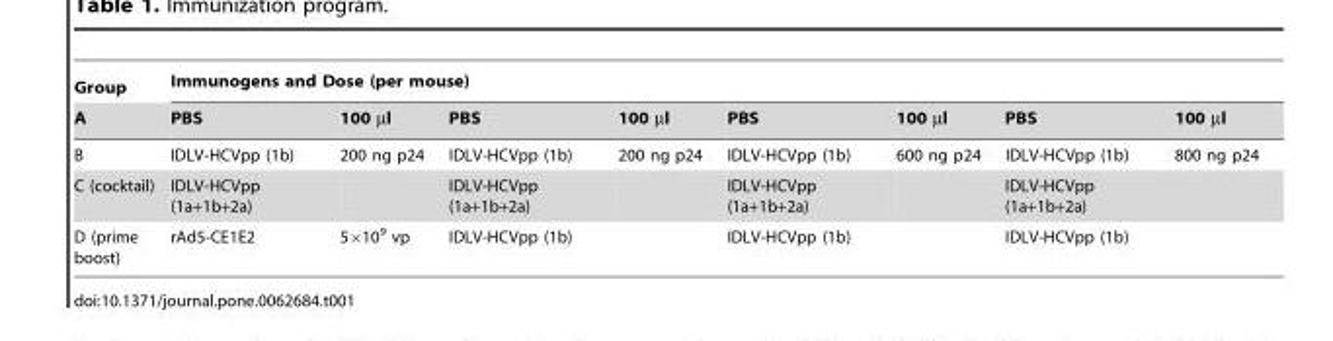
<table><thead><tr><td rowspan="2">Group A</td><td colspan="8">Immunogens and Dose (per mouse)</td></tr><tr><td>PBS</td><td>100 µl</td><td>PBS</td><td>100 µl</td><td>PBS</td><td>100 µl</td><td>PBS</td><td>100 µl</td></tr></thead><tbody><tr><td>B</td><td>IDLV-HCVpp (1b)</td><td>200 ng p24</td><td>IDLV-HCVpp (1b)</td><td>200 ng p24</td><td>IDLV-HCVpp (1b)</td><td>600 ng p24</td><td>IDLV-HCVpp (1b)</td><td>800 ng p24</td></tr><tr><td>C (cocktail)</td><td>IDLV-HCVpp (1a+1b+2a)</td><td></td><td>IDLV-HCVpp (1a+1b+2a)</td><td></td><td>IDLV-HCVpp (1a+1b+2a)</td><td></td><td>IDLV-HCVpp (1a+1b+2a)</td><td></td></tr><tr><td>D (prime boost)</td><td>rAd5-CE1E2</td><td>5×10<sup>9</sup> vp</td><td>IDLV-HCVpp (1b)</td><td></td><td>IDLV-HCVpp (1b)</td><td></td><td>IDLV-HCVpp (1b)</td><td></td></tr></tbody></table>